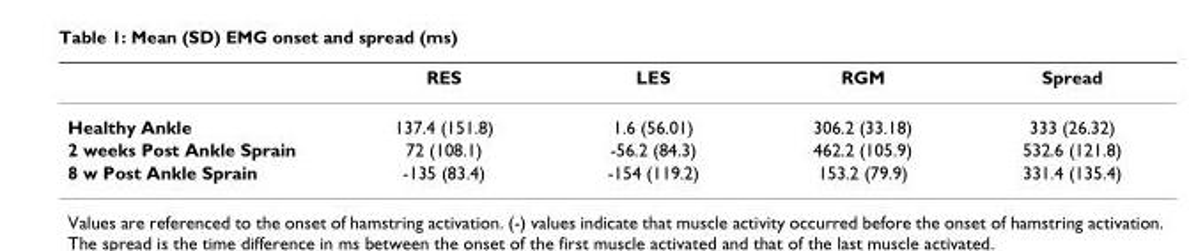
<table><thead><tr><td></td><td>RES</td><td>LES</td><td>RGM</td><td>Spread</td></tr></thead><tbody><tr><td>Healthy Ankle</td><td>137.4 (151.8)</td><td>1.6 (56.01)</td><td>306.2 (33.18)</td><td>333 (26.32)</td></tr><tr><td>2 weeks Post Ankle Sprain</td><td>72 (108.1)</td><td>-56.2 (84.3)</td><td>462.2 (105.9)</td><td>532.6 (121.8)</td></tr><tr><td>8 w Post Ankle Sprain</td><td>-135 (83.4)</td><td>-154 (119.2)</td><td>153.2 (79.9)</td><td>331.4 (135.4)</td></tr></tbody></table>